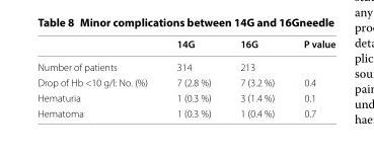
<table><thead><tr><td></td><td>14G</td><td>16G</td><td>P value</td></tr></thead><tbody><tr><td>Number of patients</td><td>314</td><td>213</td><td></td></tr><tr><td>Drop of Hb &lt;10 g/l: No. (%)</td><td>7 (2.8 %)</td><td>7 (3.2 %)</td><td>0.4</td></tr><tr><td>Hematuria</td><td>1 (0.3 %)</td><td>3 (1.4 %)</td><td>0.1</td></tr><tr><td>Hematoma</td><td>1 (0.3 %)</td><td>1 (0.4 %)</td><td>0.7</td></tr></tbody></table>